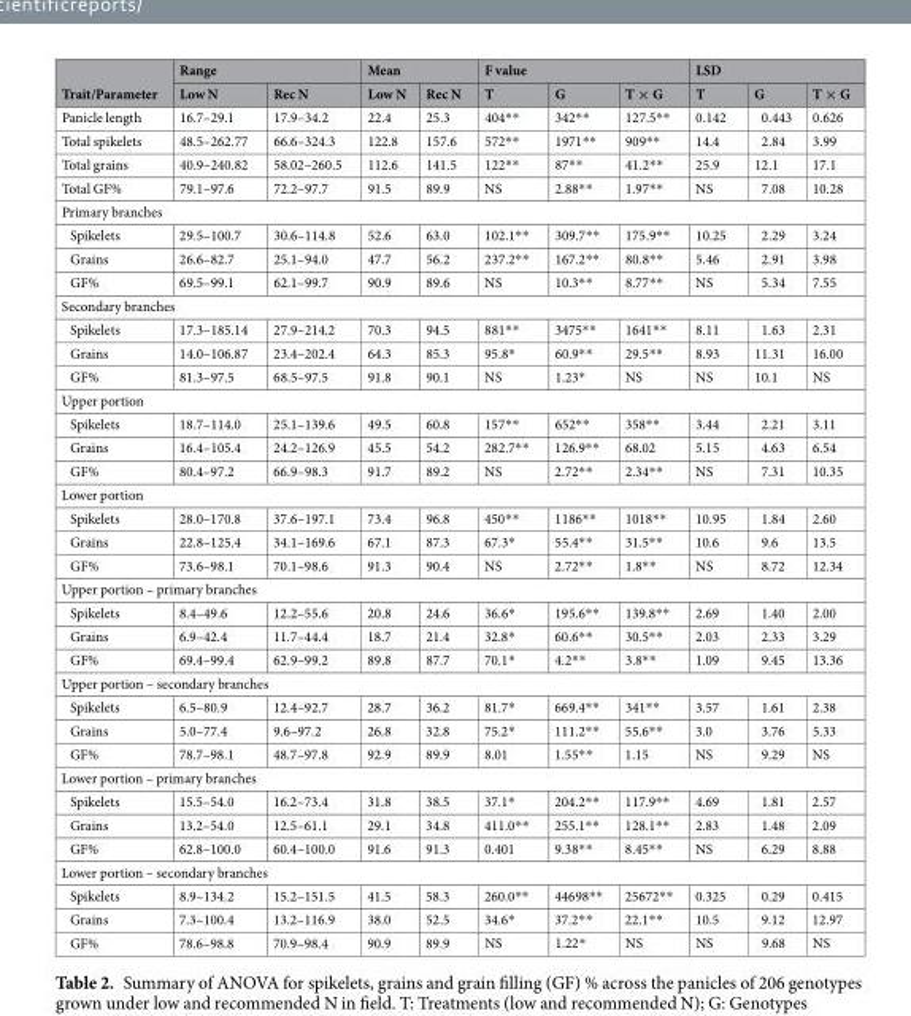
<table><thead><tr><td rowspan="2">Trait/Parameter</td><td colspan="2">Range</td><td colspan="2">Mean</td><td colspan="3">F value</td><td colspan="3">LSD</td></tr><tr><td>Low N</td><td>Rec N</td><td>Low N</td><td>Rec N</td><td>T</td><td>G</td><td>T × G</td><td>T</td><td>G</td><td>T × G</td></tr></thead><tbody><tr><td>Panicle length</td><td>16.7–29.1</td><td>17.9–34.2</td><td>22.4</td><td>25.3</td><td>404**</td><td>342**</td><td>127.5**</td><td>0.142</td><td>0.443</td><td>0.626</td></tr><tr><td>Total spikelets</td><td>48.5–262.77</td><td>66.6–324.3</td><td>122.8</td><td>157.6</td><td>572**</td><td>1971**</td><td>909**</td><td>14.4</td><td>2.84</td><td>3.99</td></tr><tr><td>Total grains</td><td>40.9–240.82</td><td>58.02–260.5</td><td>112.6</td><td>141.5</td><td>122**</td><td>87**</td><td>41.2**</td><td>25.9</td><td>12.1</td><td>17.1</td></tr><tr><td>Total GF%</td><td>79.1–97.6</td><td>72.2–97.7</td><td>91.5</td><td>89.9</td><td>NS</td><td>2.88**</td><td>1.97**</td><td>NS</td><td>7.08</td><td>10.28</td></tr><tr><td colspan="11">Primary branches</td></tr><tr><td>Spikelets</td><td>29.5–100.7</td><td>30.6–114.8</td><td>52.6</td><td>63.0</td><td>102.1**</td><td>309.7**</td><td>175.9**</td><td>10.25</td><td>2.29</td><td>3.24</td></tr><tr><td>Grains</td><td>26.6–82.7</td><td>25.1–94.0</td><td>47.7</td><td>56.2</td><td>237.2**</td><td>167.2**</td><td>80.8**</td><td>5.46</td><td>2.91</td><td>3.98</td></tr><tr><td>GF%</td><td>69.5–99.1</td><td>62.1–99.7</td><td>90.9</td><td>89.6</td><td>NS</td><td>10.3**</td><td>8.77**</td><td>NS</td><td>5.34</td><td>7.55</td></tr><tr><td colspan="11">Secondary branches</td></tr><tr><td>Spikelets</td><td>17.3–185.14</td><td>27.9–214.2</td><td>70.3</td><td>94.5</td><td>881**</td><td>3475**</td><td>1641**</td><td>8.11</td><td>1.63</td><td>2.31</td></tr><tr><td>Grains</td><td>14.0–106.87</td><td>23.4–202.4</td><td>64.3</td><td>85.3</td><td>95.8*</td><td>60.9**</td><td>29.5**</td><td>8.93</td><td>11.31</td><td>16.00</td></tr><tr><td>GF%</td><td>81.3–97.5</td><td>68.5–97.5</td><td>91.8</td><td>90.1</td><td>NS</td><td>1.23*</td><td>NS</td><td>NS</td><td>10.1</td><td>NS</td></tr><tr><td colspan="11">Upper portion</td></tr><tr><td>Spikelets</td><td>18.7–114.0</td><td>25.1–139.6</td><td>49.5</td><td>60.8</td><td>157**</td><td>652**</td><td>358**</td><td>3.44</td><td>2.21</td><td>3.11</td></tr><tr><td>Grains</td><td>16.4–105.4</td><td>24.2–126.9</td><td>45.5</td><td>54.2</td><td>282.7**</td><td>126.9**</td><td>68.02</td><td>5.15</td><td>4.63</td><td>6.54</td></tr><tr><td>GF%</td><td>80.4–97.2</td><td>66.9–98.3</td><td>91.7</td><td>89.2</td><td>NS</td><td>2.72**</td><td>2.34**</td><td>NS</td><td>7.31</td><td>10.35</td></tr><tr><td colspan="11">Lower portion</td></tr><tr><td>Spikelets</td><td>28.0–170.8</td><td>37.6–197.1</td><td>73.4</td><td>96.8</td><td>450**</td><td>1186**</td><td>1018**</td><td>10.95</td><td>1.84</td><td>2.60</td></tr><tr><td>Grains</td><td>22.8–125.4</td><td>34.1–169.6</td><td>67.1</td><td>87.3</td><td>67.3*</td><td>55.4**</td><td>31.5**</td><td>10.6</td><td>9.6</td><td>13.5</td></tr><tr><td>GF%</td><td>73.6–98.1</td><td>70.1–98.6</td><td>91.3</td><td>90.4</td><td>NS</td><td>2.72**</td><td>1.8**</td><td>NS</td><td>8.72</td><td>12.34</td></tr><tr><td colspan="11">Upper portion – primary branches</td></tr><tr><td>Spikelets</td><td>8.4–49.6</td><td>12.2–55.6</td><td>20.8</td><td>24.6</td><td>36.6*</td><td>195.6**</td><td>139.8**</td><td>2.69</td><td>1.40</td><td>2.00</td></tr><tr><td>Grains</td><td>6.9–42.4</td><td>11.7–44.4</td><td>18.7</td><td>21.4</td><td>32.8*</td><td>60.6**</td><td>30.5**</td><td>2.03</td><td>2.33</td><td>3.29</td></tr><tr><td>GF%</td><td>69.4–99.4</td><td>62.9–99.2</td><td>89.8</td><td>87.7</td><td>70.1*</td><td>4.2**</td><td>3.8**</td><td>1.09</td><td>9.45</td><td>13.36</td></tr><tr><td colspan="11">Upper portion – secondary branches</td></tr><tr><td>Spikelets</td><td>6.5–80.9</td><td>12.4–92.7</td><td>28.7</td><td>36.2</td><td>81.7*</td><td>669.4**</td><td>341**</td><td>3.57</td><td>1.61</td><td>2.38</td></tr><tr><td>Grains</td><td>5.0–77.4</td><td>9.6–97.2</td><td>26.8</td><td>32.8</td><td>75.2*</td><td>111.2**</td><td>55.6**</td><td>3.0</td><td>3.76</td><td>5.33</td></tr><tr><td>GF%</td><td>78.7–98.1</td><td>48.7–97.8</td><td>92.9</td><td>89.9</td><td>8.01</td><td>1.55**</td><td>1.15</td><td>NS</td><td>9.29</td><td>NS</td></tr><tr><td colspan="11">Lower portion – primary branches</td></tr><tr><td>Spikelets</td><td>15.5–54.0</td><td>16.2–73.4</td><td>31.8</td><td>38.5</td><td>37.1*</td><td>204.2**</td><td>117.9**</td><td>4.69</td><td>1.81</td><td>2.57</td></tr><tr><td>Grains</td><td>13.2–54.0</td><td>12.5–61.1</td><td>29.1</td><td>34.8</td><td>411.0**</td><td>255.1**</td><td>128.1**</td><td>2.83</td><td>1.48</td><td>2.09</td></tr><tr><td>GF%</td><td>62.8–100.0</td><td>60.4–100.0</td><td>91.6</td><td>91.3</td><td>0.401</td><td>9.38**</td><td>8.45**</td><td>NS</td><td>6.29</td><td>8.88</td></tr><tr><td colspan="11">Lower portion – secondary branches</td></tr><tr><td>Spikelets</td><td>8.9–134.2</td><td>15.2–151.5</td><td>41.5</td><td>58.3</td><td>260.0**</td><td>44698**</td><td>25672**</td><td>0.325</td><td>0.29</td><td>0.415</td></tr><tr><td>Grains</td><td>7.3–100.4</td><td>13.2–116.9</td><td>38.0</td><td>52.5</td><td>34.6*</td><td>37.2**</td><td>22.1**</td><td>10.5</td><td>9.12</td><td>12.97</td></tr><tr><td>GF%</td><td>78.6–98.8</td><td>70.9–98.4</td><td>90.9</td><td>89.9</td><td>NS</td><td>1.22*</td><td>NS</td><td>NS</td><td>9.68</td><td>NS</td></tr></tbody></table>